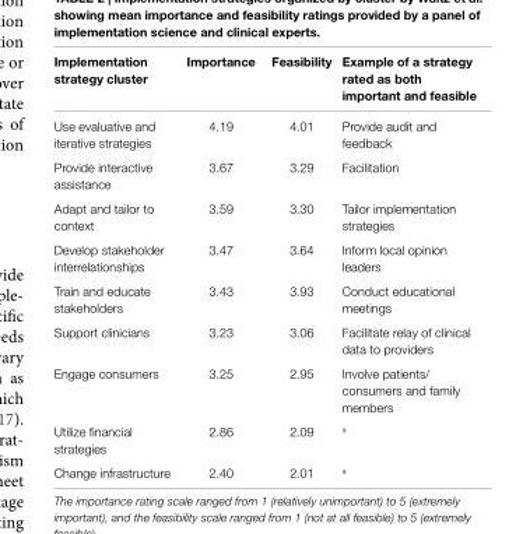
<table><thead><tr><td>implementation strategy cluster</td><td>importance</td><td>Feasibility</td><td>example of a strategy rated as both important and feasible</td></tr></thead><tbody><tr><td>Use evaluative and iterative strategies</td><td>4.19</td><td>4.01</td><td>Provide audit and feedback</td></tr><tr><td>Provide interactive assistance</td><td>3.67</td><td>3.29</td><td>Facilitation</td></tr><tr><td>Adapt and tailor to context</td><td>3.59</td><td>3.30</td><td>Tailor implementation strategies</td></tr><tr><td>Develop stakeholder interrelationships</td><td>3.47</td><td>3.64</td><td>Inform local opinion leaders</td></tr><tr><td>Train and educate stakeholders</td><td>3.43</td><td>3.93</td><td>Conduct educational meetings</td></tr><tr><td>Support clinicians</td><td>3.23</td><td>3.06</td><td>Facilitate relay of clinical data to providers</td></tr><tr><td>Engage consumers</td><td>3.25</td><td>2.95</td><td>Involve patients/ consumers and family members</td></tr><tr><td>Utilize financial strategies</td><td>2.86</td><td>2.09</td><td><sup>a</sup></td></tr><tr><td>Change infrastructure</td><td>2.40</td><td>2.01</td><td><sup>a</sup></td></tr></tbody></table>